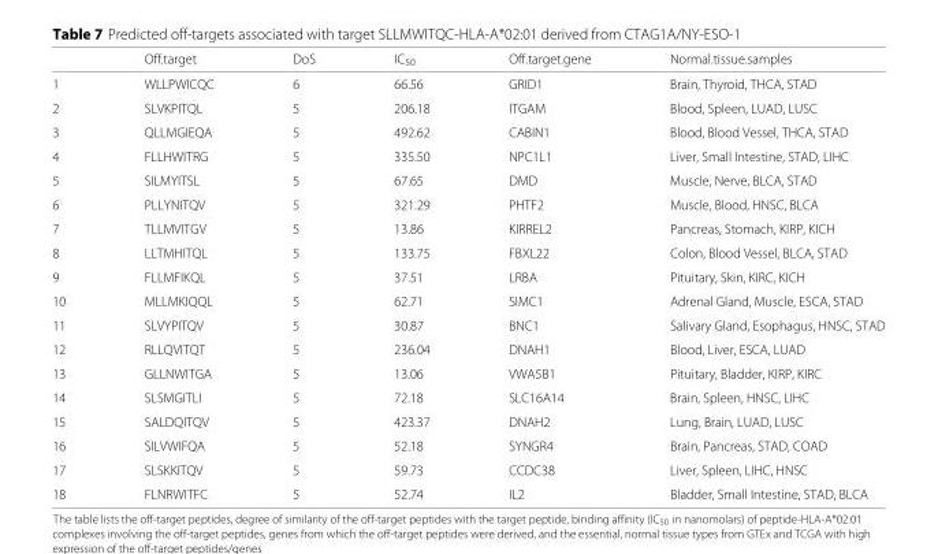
<table><thead><tr><td></td><td>Off.target</td><td>DoS</td><td>IC<sub>50</sub></td><td>Off.target.gene</td><td>Normal.tissue.samples</td></tr></thead><tbody><tr><td>1</td><td>WLLPWICQC</td><td>6</td><td>66.56</td><td>GRID1</td><td>Brain, Thyroid, THCA, STAD</td></tr><tr><td>2</td><td>SLVKPITQL</td><td>5</td><td>206.18</td><td>ITGAM</td><td>Blood, Spleen, LUAD, LUSC</td></tr><tr><td>3</td><td>QLLMGIEQA</td><td>5</td><td>492.62</td><td>CABIN1</td><td>Blood, Blood Vessel, THCA, STAD</td></tr><tr><td>4</td><td>FLLHWITRG</td><td>5</td><td>335.50</td><td>NPC1L1</td><td>Liver, Small Intestine, STAD, LIHC</td></tr><tr><td>5</td><td>SILMYITSL</td><td>5</td><td>67.65</td><td>DMD</td><td>Muscle, Nerve, BLCA, STAD</td></tr><tr><td>6</td><td>PLLYNITQV</td><td>5</td><td>321.29</td><td>PHTF2</td><td>Muscle, Blood, HNSC, BLCA</td></tr><tr><td>7</td><td>TLLMVITGV</td><td>5</td><td>13.86</td><td>KIRREL2</td><td>Pancreas, Stomach, KIRP, KICH</td></tr><tr><td>8</td><td>LLTMHITQL</td><td>5</td><td>133.75</td><td>FBXL22</td><td>Colon, Blood Vessel, BLCA, STAD</td></tr><tr><td>9</td><td>FLLMFIKQL</td><td>5</td><td>37.51</td><td>LRBA</td><td>Pituitary, Skin, KIRC, KICH</td></tr><tr><td>10</td><td>MLLMKIQQL</td><td>5</td><td>62.71</td><td>SIMC1</td><td>Adrenal Gland, Muscle, ESCA, STAD</td></tr><tr><td>11</td><td>SLVYPITQV</td><td>5</td><td>30.87</td><td>BNC1</td><td>Salivary Gland, Esophagus, HNSC, STAD</td></tr><tr><td>12</td><td>RLLQVITQT</td><td>5</td><td>236.04</td><td>DNAH1</td><td>Blood, Liver, ESCA, LUAD</td></tr><tr><td>13</td><td>GLLNWITGA</td><td>5</td><td>13.06</td><td>VWA5B1</td><td>Pituitary, Bladder, KIRP, KIRC</td></tr><tr><td>14</td><td>SLSMGITLI</td><td>5</td><td>72.18</td><td>SLC16A14</td><td>Brain, Spleen, HNSC, LIHC</td></tr><tr><td>15</td><td>SALDQITQV</td><td>5</td><td>423.37</td><td>DNAH2</td><td>Lung, Brain, LUAD, LUSC</td></tr><tr><td>16</td><td>SILVWIFQA</td><td>5</td><td>52.18</td><td>SYNGR4</td><td>Brain, Pancreas, STAD, COAD</td></tr><tr><td>17</td><td>SLSKKITQV</td><td>5</td><td>59.73</td><td>CCDC38</td><td>Liver, Spleen, LIHC, HNSC</td></tr><tr><td>18</td><td>FLNRWITFC</td><td>5</td><td>52.74</td><td>IL2</td><td>Bladder, Small Intestine, STAD, BLCA</td></tr></tbody></table>